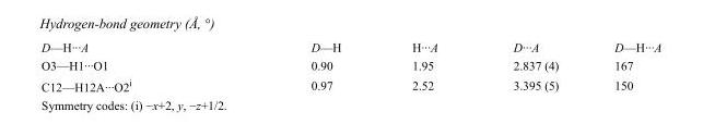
<table><tbody><tr><td>D—H···A</td><td>D—H</td><td>H···A</td><td>D···A</td><td>D—H···A</td></tr><tr><td>O3—H1···O1</td><td>0.90</td><td>1.95</td><td>2.837 (4)</td><td>167</td></tr><tr><td>C12—H12A···O2<sup>i</sup></td><td>0.97</td><td>2.52</td><td>3.395 (5)</td><td>150</td></tr></tbody></table>